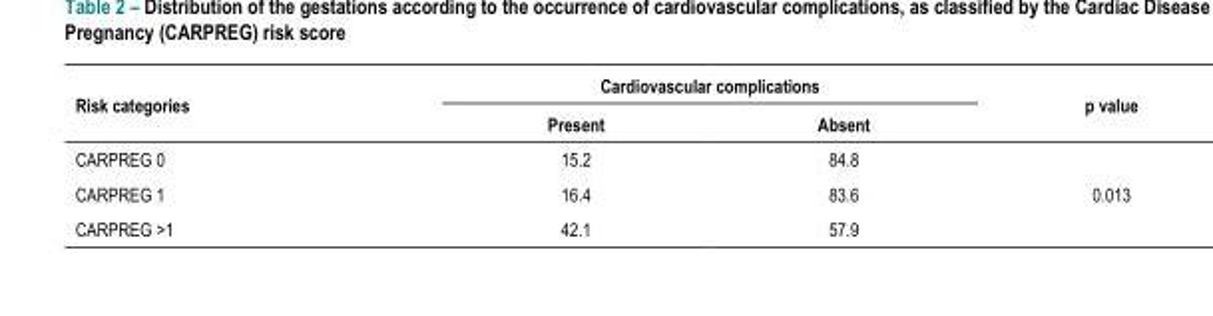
<table><thead><tr><td rowspan="2">Risk categories</td><td colspan="2">Cardiovascular complications</td><td rowspan="2">p value</td></tr><tr><td>Present</td><td>Absent</td></tr></thead><tbody><tr><td>CARPREG 0</td><td>15.2</td><td>84.8</td><td rowspan="3">0.013</td></tr><tr><td>CARPREG 1</td><td>16.4</td><td>83.6</td></tr><tr><td>CARPREG &gt;1</td><td>42.1</td><td>57.9</td></tr></tbody></table>